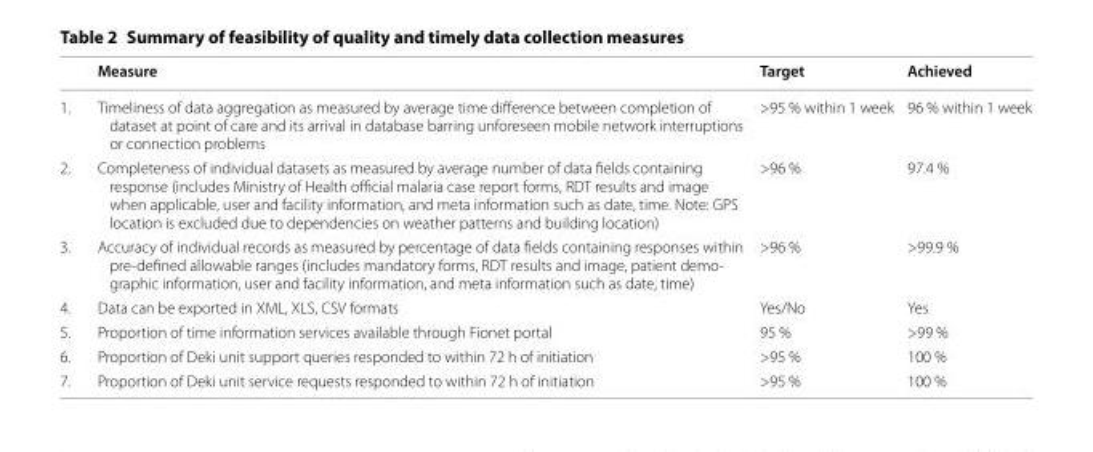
<table><thead><tr><td></td><td>Measure</td><td>Target</td><td>Achieved</td></tr></thead><tbody><tr><td>1.</td><td>Timeliness of data aggregation as measured by average time difference between completion of dataset at point of care and its arrival in database barring unforeseen mobile network interruptions or connection problems</td><td>&gt;95 % within 1 week</td><td>96 % within 1 week</td></tr><tr><td>2.</td><td>Completeness of individual datasets as measured by average number of data fields containing response (includes Ministry of Health official malaria case report forms, RDT results and image when applicable, user and facility information, and meta information such as date, time. Note: GPS location is excluded due to dependencies on weather patterns and building location)</td><td>&gt;96 %</td><td>97.4 %</td></tr><tr><td>3.</td><td>Accuracy of individual records as measured by percentage of data fields containing responses within pre-defined allowable ranges (includes mandatory forms, RDT results and image, patient demo- graphic information, user and facility information, and meta information such as date, time)</td><td>&gt;96 %</td><td>&gt;99.9 %</td></tr><tr><td>4.</td><td>Data can be exported in XML, XLS, CSV formats</td><td>Yes/No</td><td>Yes</td></tr><tr><td>5.</td><td>Proportion of time information services available through Fionet portal</td><td>95 %</td><td>&gt;99 %</td></tr><tr><td>6.</td><td>Proportion of Deki unit support queries responded to within 72 h of initiation</td><td>&gt;95 %</td><td>100 %</td></tr><tr><td>7.</td><td>Proportion of Deki unit service requests responded to within 72 h of initiation</td><td>&gt;95 %</td><td>100 %</td></tr></tbody></table>